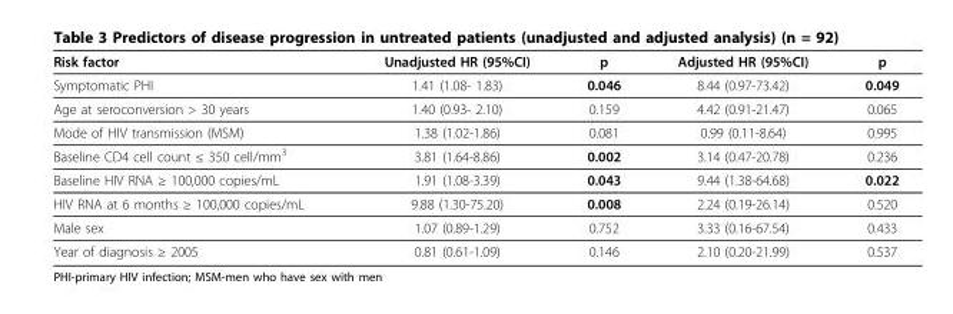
<table><thead><tr><td>Risk factor</td><td>Unadjusted HR (95%CI)</td><td>p</td><td>Adjusted HR (95%CI)</td><td>p</td></tr></thead><tbody><tr><td>Symptomatic PHI</td><td>1.41 (1.08- 1.83)</td><td>0.046</td><td>8.44 (0.97-73.42)</td><td>0.049</td></tr><tr><td>Age at seroconversion &gt; 30 years</td><td>1.40 (0.93- 2.10)</td><td>0.159</td><td>4.42 (0.91-21.47)</td><td>0.065</td></tr><tr><td>Mode of HIV transmission (MSM)</td><td>1.38 (1.02-1.86)</td><td>0.081</td><td>0.99 (0.11-8.64)</td><td>0.995</td></tr><tr><td>Baseline CD4 cell count ≤ 350 cell/mm<sup>3</sup></td><td>3.81 (1.64-8.86)</td><td>0.002</td><td>3.14 (0.47-20.78)</td><td>0.236</td></tr><tr><td>Baseline HIV RNA ≥ 100,000 copies/mL</td><td>1.91 (1.08-3.39)</td><td>0.043</td><td>9.44 (1.38-64.68)</td><td>0.022</td></tr><tr><td>HIV RNA at 6 months ≥ 100,000 copies/mL</td><td>9.88 (1.30-75.20)</td><td>0.008</td><td>2.24 (0.19-26.14)</td><td>0.520</td></tr><tr><td>Male sex</td><td>1.07 (0.89-1.29)</td><td>0.752</td><td>3.33 (0.16-67.54)</td><td>0.433</td></tr><tr><td>Year of diagnosis ≥ 2005</td><td>0.81 (0.61-1.09)</td><td>0.146</td><td>2.10 (0.20-21.99)</td><td>0.537</td></tr></tbody></table>